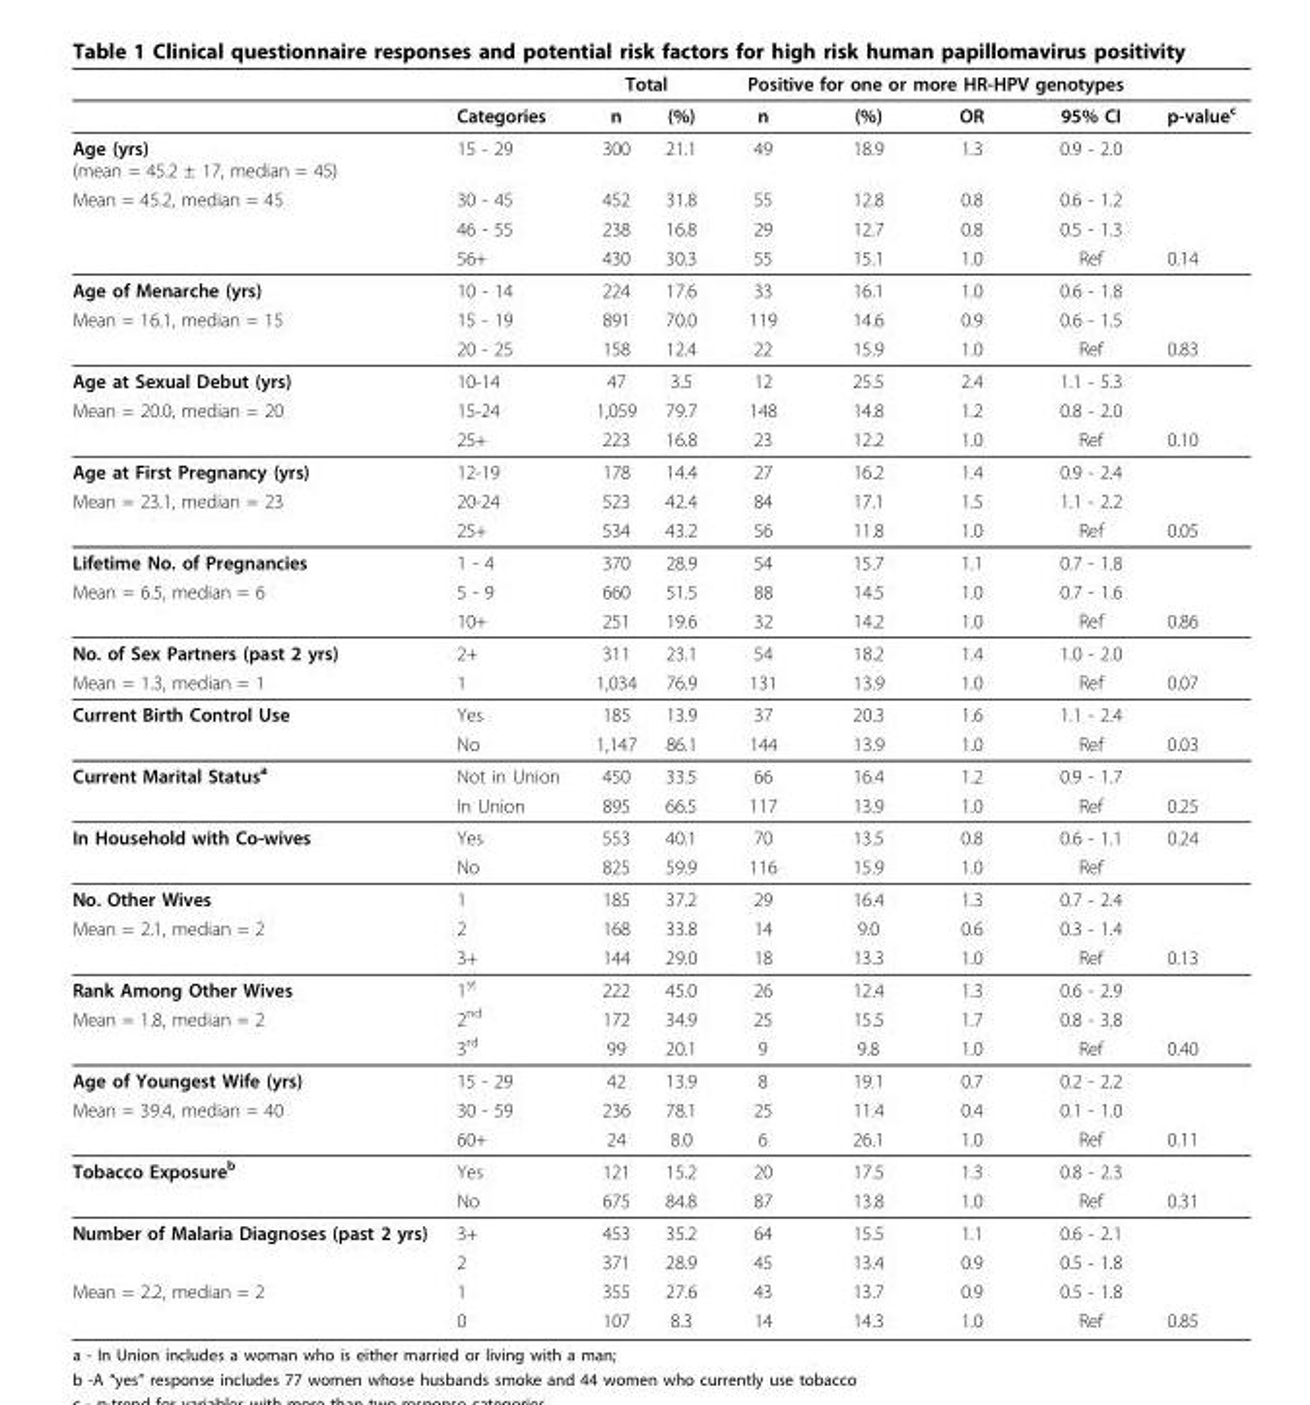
<table><thead><tr><td rowspan="2"></td><td rowspan="2">Categories</td><td colspan="2">Total</td><td colspan="4">Positive for one or more HR-HPV genotypes</td><td rowspan="2">p-value<sup>c</sup></td></tr><tr><td>n</td><td>(%)</td><td>n</td><td>(%)</td><td>OR</td><td>95% CI</td></tr></thead><tbody><tr><td>Age (yrs) (mean = 45.2 ± 17, median = 45)</td><td>15 - 29</td><td>300</td><td>21.1</td><td>49</td><td>18.9</td><td>1.3</td><td>0.9 - 2.0</td><td></td></tr><tr><td rowspan="3">Mean = 45.2, median = 45</td><td>30 - 45</td><td>452</td><td>31.8</td><td>55</td><td>12.8</td><td>0.8</td><td>0.6 - 1.2</td><td></td></tr><tr><td>46 - 55</td><td>238</td><td>16.8</td><td>29</td><td>12.7</td><td>0.8</td><td>0.5 - 1.3</td><td></td></tr><tr><td>56+</td><td>430</td><td>30.3</td><td>55</td><td>15.1</td><td>1.0</td><td>Ref</td><td>0.14</td></tr><tr><td>Age of Menarche (yrs)</td><td>10 - 14</td><td>224</td><td>17.6</td><td>33</td><td>16.1</td><td>1.0</td><td>0.6 - 1.8</td><td></td></tr><tr><td rowspan="2">Mean = 16.1, median = 15</td><td>15 - 19</td><td>891</td><td>70.0</td><td>119</td><td>14.6</td><td>0.9</td><td>0.6 - 1.5</td><td></td></tr><tr><td>20 - 25</td><td>158</td><td>12.4</td><td>22</td><td>15.9</td><td>1.0</td><td>Ref</td><td>0.83</td></tr><tr><td>Age at Sexual Debut (yrs)</td><td>10-14</td><td>47</td><td>3.5</td><td>12</td><td>25.5</td><td>2.4</td><td>1.1 - 5.3</td><td></td></tr><tr><td rowspan="2">Mean = 20.0, median = 20</td><td>15-24</td><td>1,059</td><td>79.7</td><td>148</td><td>14.8</td><td>1.2</td><td>0.8 - 2.0</td><td></td></tr><tr><td>25+</td><td>223</td><td>16.8</td><td>23</td><td>12.2</td><td>1.0</td><td>Ref</td><td>0.10</td></tr><tr><td>Age at First Pregnancy (yrs)</td><td>12-19</td><td>178</td><td>14.4</td><td>27</td><td>16.2</td><td>1.4</td><td>0.9 - 2.4</td><td></td></tr><tr><td rowspan="2">Mean = 23.1, median = 23</td><td>20-24</td><td>523</td><td>42.4</td><td>84</td><td>17.1</td><td>1.5</td><td>1.1 - 2.2</td><td></td></tr><tr><td>25+</td><td>534</td><td>43.2</td><td>56</td><td>11.8</td><td>1.0</td><td>Ref</td><td>0.05</td></tr><tr><td>Lifetime No. of Pregnancies</td><td>1 - 4</td><td>370</td><td>28.9</td><td>54</td><td>15.7</td><td>1.1</td><td>0.7 - 1.8</td><td></td></tr><tr><td rowspan="2">Mean = 6.5, median = 6</td><td>5 - 9</td><td>660</td><td>51.5</td><td>88</td><td>14.5</td><td>1.0</td><td>0.7 - 1.6</td><td></td></tr><tr><td>10+</td><td>251</td><td>19.6</td><td>32</td><td>14.2</td><td>1.0</td><td>Ref</td><td>0.86</td></tr><tr><td>No. of Sex Partners (past 2 yrs)</td><td>2+</td><td>311</td><td>23.1</td><td>54</td><td>18.2</td><td>1.4</td><td>1.0 - 2.0</td><td></td></tr><tr><td>Mean = 1.3, median = 1</td><td>1</td><td>1,034</td><td>76.9</td><td>131</td><td>13.9</td><td>1.0</td><td>Ref</td><td>0.07</td></tr><tr><td rowspan="2">Current Birth Control Use</td><td>Yes</td><td>185</td><td>13.9</td><td>37</td><td>20.3</td><td>1.6</td><td>1.1 - 2.4</td><td></td></tr><tr><td>No</td><td>1,147</td><td>86.1</td><td>144</td><td>13.9</td><td>1.0</td><td>Ref</td><td>0.03</td></tr><tr><td rowspan="2">Current Marital Status<sup>a</sup></td><td>Not in Union</td><td>450</td><td>33.5</td><td>66</td><td>16.4</td><td>1.2</td><td>0.9 - 1.7</td><td></td></tr><tr><td>In Union</td><td>895</td><td>66.5</td><td>117</td><td>13.9</td><td>1.0</td><td>Ref</td><td>0.25</td></tr><tr><td rowspan="2">In Household with Co-wives</td><td>Yes</td><td>553</td><td>40.1</td><td>70</td><td>13.5</td><td>0.8</td><td>0.6 - 1.1</td><td>0.24</td></tr><tr><td>No</td><td>825</td><td>59.9</td><td>116</td><td>15.9</td><td>1.0</td><td>Ref</td><td></td></tr><tr><td>No. Other Wives</td><td>1</td><td>185</td><td>37.2</td><td>29</td><td>16.4</td><td>1.3</td><td>0.7 - 2.4</td><td></td></tr><tr><td rowspan="2">Mean = 2.1, median = 2</td><td>2</td><td>168</td><td>33.8</td><td>14</td><td>9.0</td><td>0.6</td><td>0.3 - 1.4</td><td></td></tr><tr><td>3+</td><td>144</td><td>29.0</td><td>18</td><td>13.3</td><td>1.0</td><td>Ref</td><td>0.13</td></tr><tr><td>Rank Among Other Wives</td><td>1<sup>st</sup></td><td>222</td><td>45.0</td><td>26</td><td>12.4</td><td>1.3</td><td>0.6 - 2.9</td><td></td></tr><tr><td rowspan="2">Mean = 1.8, median = 2</td><td>2<sup>nd</sup></td><td>172</td><td>34.9</td><td>25</td><td>15.5</td><td>1.7</td><td>0.8 - 3.8</td><td></td></tr><tr><td>3<sup>rd</sup></td><td>99</td><td>20.1</td><td>9</td><td>9.8</td><td>1.0</td><td>Ref</td><td>0.40</td></tr><tr><td>Age of Youngest Wife (yrs)</td><td>15 - 29</td><td>42</td><td>13.9</td><td>8</td><td>19.1</td><td>0.7</td><td>0.2 - 2.2</td><td></td></tr><tr><td rowspan="2">Mean = 39.4, median = 40</td><td>30 - 59</td><td>236</td><td>78.1</td><td>25</td><td>11.4</td><td>0.4</td><td>0.1 - 1.0</td><td></td></tr><tr><td>60+</td><td>24</td><td>8.0</td><td>6</td><td>26.1</td><td>1.0</td><td>Ref</td><td>0.11</td></tr><tr><td rowspan="2">Tobacco Exposure<sup>b</sup></td><td>Yes</td><td>121</td><td>15.2</td><td>20</td><td>17.5</td><td>1.3</td><td>0.8 - 2.3</td><td></td></tr><tr><td>No</td><td>675</td><td>84.8</td><td>87</td><td>13.8</td><td>1.0</td><td>Ref</td><td>0.31</td></tr><tr><td rowspan="2">Number of Malaria Diagnoses (past 2 yrs)</td><td>3+</td><td>453</td><td>35.2</td><td>64</td><td>15.5</td><td>1.1</td><td>0.6 - 2.1</td><td></td></tr><tr><td>2</td><td>371</td><td>28.9</td><td>45</td><td>13.4</td><td>0.9</td><td>0.5 - 1.8</td><td></td></tr><tr><td rowspan="2">Mean = 2.2, median = 2</td><td>1</td><td>355</td><td>27.6</td><td>43</td><td>13.7</td><td>0.9</td><td>0.5 - 1.8</td><td></td></tr><tr><td>0</td><td>107</td><td>8.3</td><td>14</td><td>14.3</td><td>1.0</td><td>Ref</td><td>0.85</td></tr></tbody></table>